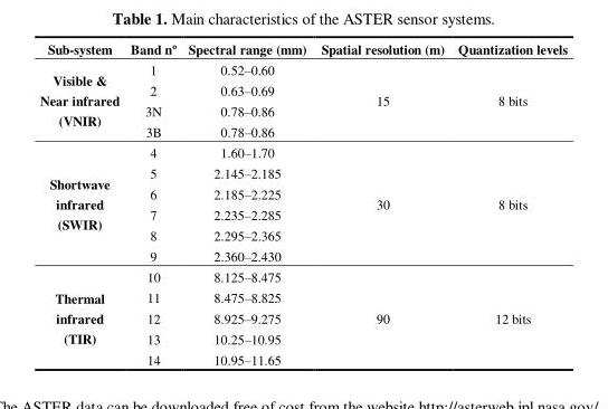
<table><thead><tr><td>Sub-system</td><td>Band nº</td><td>Spectral range (mm)</td><td>Spatial resolution (m)</td><td>Quantization levels</td></tr></thead><tbody><tr><td rowspan="4">Visible &amp; Near infrared (VNIR)</td><td>1</td><td>0.52–0.60</td><td rowspan="4">15</td><td rowspan="4">8 bits</td></tr><tr><td>2</td><td>0.63–0.69</td></tr><tr><td>3N</td><td>0.78–0.86</td></tr><tr><td>3B</td><td>0.78–0.86</td></tr><tr><td rowspan="6">Shortwave infrared (SWIR)</td><td>4</td><td>1.60–1.70</td><td rowspan="6">30</td><td rowspan="6">8 bits</td></tr><tr><td>5</td><td>2.145–2.185</td></tr><tr><td>6</td><td>2.185–2.225</td></tr><tr><td>7</td><td>2.235–2.285</td></tr><tr><td>8</td><td>2.295–2.365</td></tr><tr><td>9</td><td>2.360–2.430</td></tr><tr><td rowspan="5">Thermal infrared (TIR)</td><td>10</td><td>8.125–8.475</td><td rowspan="5">90</td><td rowspan="5">12 bits</td></tr><tr><td>11</td><td>8.475–8.825</td></tr><tr><td>12</td><td>8.925–9.275</td></tr><tr><td>13</td><td>10.25–10.95</td></tr><tr><td>14</td><td>10.95–11.65</td></tr></tbody></table>